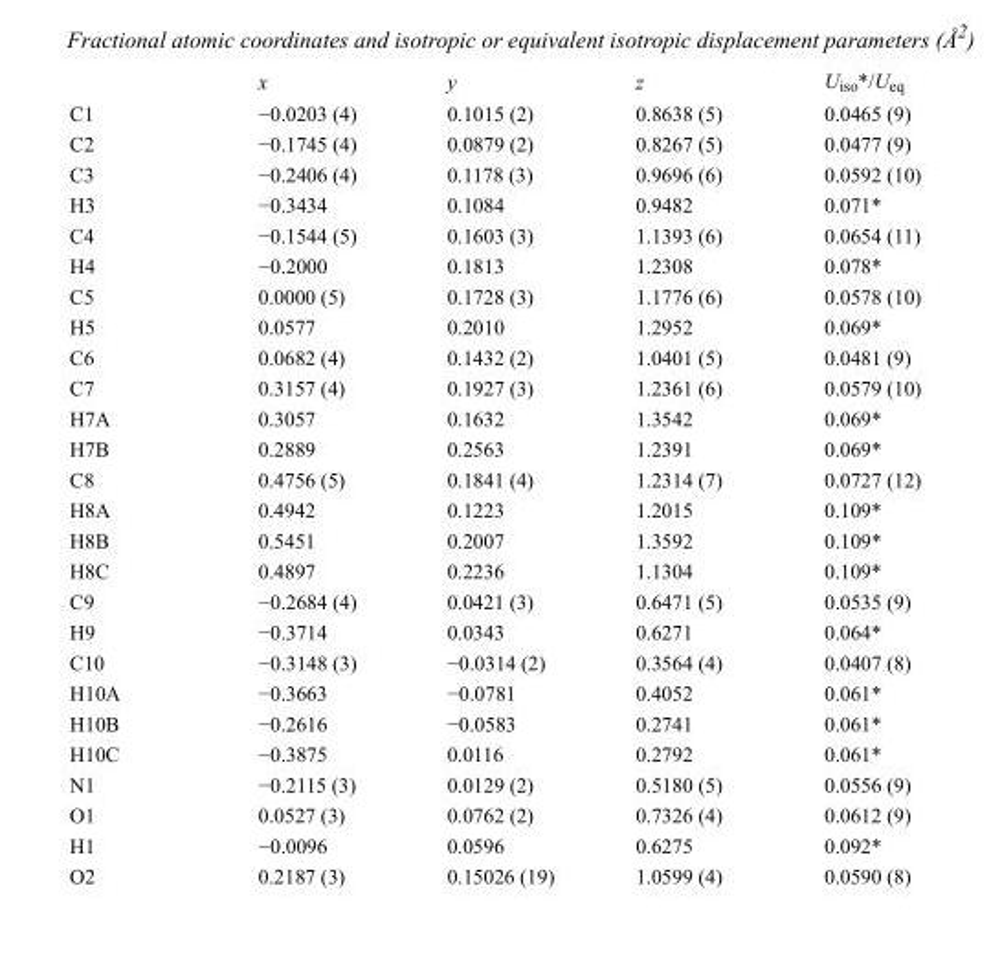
<table><thead><tr><td></td><td>x</td><td>y</td><td>z</td><td>U<sub>iso</sub>*/U<sub>eq</sub></td></tr></thead><tbody><tr><td>C1</td><td>−0.0203 (4)</td><td>0.1015 (2)</td><td>0.8638 (5)</td><td>0.0465 (9)</td></tr><tr><td>C2</td><td>−0.1745 (4)</td><td>0.0879 (2)</td><td>0.8267 (5)</td><td>0.0477 (9)</td></tr><tr><td>C3</td><td>−0.2406 (4)</td><td>0.1178 (3)</td><td>0.9696 (6)</td><td>0.0592 (10)</td></tr><tr><td>H3</td><td>−0.3434</td><td>0.1084</td><td>0.9482</td><td>0.071*</td></tr><tr><td>C4</td><td>−0.1544 (5)</td><td>0.1603 (3)</td><td>1.1393 (6)</td><td>0.0654 (11)</td></tr><tr><td>H4</td><td>−0.2000</td><td>0.1813</td><td>1.2308</td><td>0.078*</td></tr><tr><td>C5</td><td>0.0000 (5)</td><td>0.1728 (3)</td><td>1.1776 (6)</td><td>0.0578 (10)</td></tr><tr><td>H5</td><td>0.0577</td><td>0.2010</td><td>1.2952</td><td>0.069*</td></tr><tr><td>C6</td><td>0.0682 (4)</td><td>0.1432 (2)</td><td>1.0401 (5)</td><td>0.0481 (9)</td></tr><tr><td>C7</td><td>0.3157 (4)</td><td>0.1927 (3)</td><td>1.2361 (6)</td><td>0.0579 (10)</td></tr><tr><td>H7A</td><td>0.3057</td><td>0.1632</td><td>1.3542</td><td>0.069*</td></tr><tr><td>H7B</td><td>0.2889</td><td>0.2563</td><td>1.2391</td><td>0.069*</td></tr><tr><td>C8</td><td>0.4756 (5)</td><td>0.1841 (4)</td><td>1.2314 (7)</td><td>0.0727 (12)</td></tr><tr><td>H8A</td><td>0.4942</td><td>0.1223</td><td>1.2015</td><td>0.109*</td></tr><tr><td>H8B</td><td>0.5451</td><td>0.2007</td><td>1.3592</td><td>0.109*</td></tr><tr><td>H8C</td><td>0.4897</td><td>0.2236</td><td>1.1304</td><td>0.109*</td></tr><tr><td>C9</td><td>−0.2684 (4)</td><td>0.0421 (3)</td><td>0.6471 (5)</td><td>0.0535 (9)</td></tr><tr><td>H9</td><td>−0.3714</td><td>0.0343</td><td>0.6271</td><td>0.064*</td></tr><tr><td>C10</td><td>−0.3148 (3)</td><td>−0.0314 (2)</td><td>0.3564 (4)</td><td>0.0407 (8)</td></tr><tr><td>H10A</td><td>−0.3663</td><td>−0.0781</td><td>0.4052</td><td>0.061*</td></tr><tr><td>H10B</td><td>−0.2616</td><td>−0.0583</td><td>0.2741</td><td>0.061*</td></tr><tr><td>H10C</td><td>−0.3875</td><td>0.0116</td><td>0.2792</td><td>0.061*</td></tr><tr><td>N1</td><td>−0.2115 (3)</td><td>0.0129 (2)</td><td>0.5180 (5)</td><td>0.0556 (9)</td></tr><tr><td>O1</td><td>0.0527 (3)</td><td>0.0762 (2)</td><td>0.7326 (4)</td><td>0.0612 (9)</td></tr><tr><td>H1</td><td>−0.0096</td><td>0.0596</td><td>0.6275</td><td>0.092*</td></tr><tr><td>O2</td><td>0.2187 (3)</td><td>0.15026 (19)</td><td>1.0599 (4)</td><td>0.0590 (8)</td></tr></tbody></table>